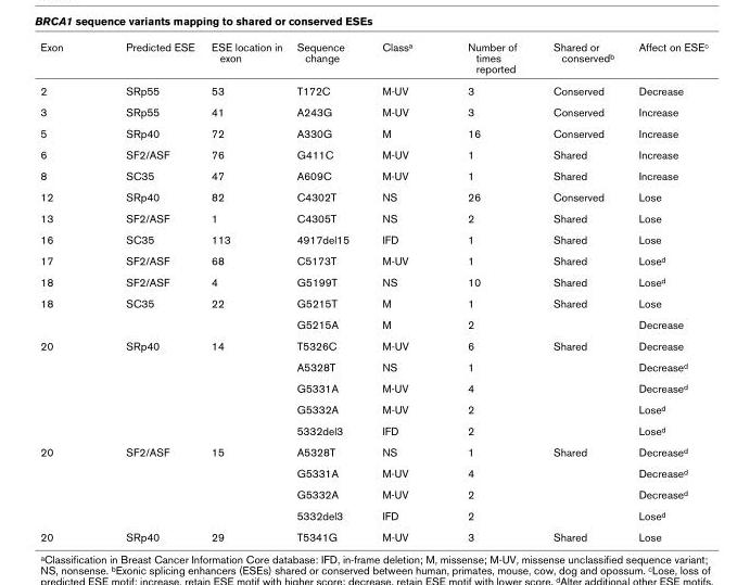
<table><thead><tr><td>Exon</td><td>Predicted ESE</td><td>ESE location in exon</td><td>Sequence change</td><td>Classa</td><td>Number of times reported</td><td>Shared or conservedb</td><td>Affect on ESEc</td></tr></thead><tbody><tr><td>2</td><td>SRp55</td><td>53</td><td>T172C</td><td>M-UV</td><td>3</td><td>Conserved</td><td>Decrease</td></tr><tr><td>3</td><td>SRp55</td><td>41</td><td>A243G</td><td>M-UV</td><td>3</td><td>Conserved</td><td>Increase</td></tr><tr><td>5</td><td>SRp40</td><td>72</td><td>A330G</td><td>M</td><td>16</td><td>Conserved</td><td>Increase</td></tr><tr><td>6</td><td>SF2/ASF</td><td>76</td><td>G411C</td><td>M-UV</td><td>1</td><td>Shared</td><td>Increase</td></tr><tr><td>8</td><td>SC35</td><td>47</td><td>A609C</td><td>M-UV</td><td>1</td><td>Shared</td><td>Increase</td></tr><tr><td>12</td><td>SRp40</td><td>82</td><td>C4302T</td><td>NS</td><td>26</td><td>Conserved</td><td>Lose</td></tr><tr><td>13</td><td>SF2/ASF</td><td>1</td><td>C4305T</td><td>NS</td><td>2</td><td>Shared</td><td>Lose</td></tr><tr><td>16</td><td>SC35</td><td>113</td><td>4917del15</td><td>IFD</td><td>1</td><td>Shared</td><td>Lose</td></tr><tr><td>17</td><td>SF2/ASF</td><td>68</td><td>C5173T</td><td>M-UV</td><td>1</td><td>Shared</td><td>Losed</td></tr><tr><td>18</td><td>SF2/ASF</td><td>4</td><td>G5199T</td><td>NS</td><td>10</td><td>Shared</td><td>Losed</td></tr><tr><td rowspan="2">18</td><td>SC35</td><td>22</td><td>G5215T</td><td>M</td><td>1</td><td>Shared</td><td>Lose</td></tr><tr><td></td><td></td><td>G5215A</td><td>M</td><td>2</td><td></td><td>Decrease</td></tr><tr><td rowspan="5">20</td><td>SRp40</td><td>14</td><td>T5326C</td><td>M-UV</td><td>6</td><td>Shared</td><td>Decrease</td></tr><tr><td></td><td></td><td>A5328T</td><td>NS</td><td>1</td><td></td><td>Decreased</td></tr><tr><td></td><td></td><td>G5331A</td><td>M-UV</td><td>4</td><td></td><td>Decreased</td></tr><tr><td></td><td></td><td>G5332A</td><td>M-UV</td><td>2</td><td></td><td>Losed</td></tr><tr><td></td><td></td><td>5332del3</td><td>IFD</td><td>2</td><td></td><td>Losed</td></tr><tr><td rowspan="4">20</td><td>SF2/ASF</td><td>15</td><td>A5328T</td><td>NS</td><td>1</td><td>Shared</td><td>Decreased</td></tr><tr><td></td><td></td><td>G5331A</td><td>M-UV</td><td>4</td><td></td><td>Decreased</td></tr><tr><td></td><td></td><td>G5332A</td><td>M-UV</td><td>2</td><td></td><td>Decreased</td></tr><tr><td></td><td></td><td>5332del3</td><td>IFD</td><td>2</td><td></td><td>Losed</td></tr><tr><td>20</td><td>SRp40</td><td>29</td><td>T5341G</td><td>M-UV</td><td>3</td><td>Shared</td><td>Lose</td></tr></tbody></table>